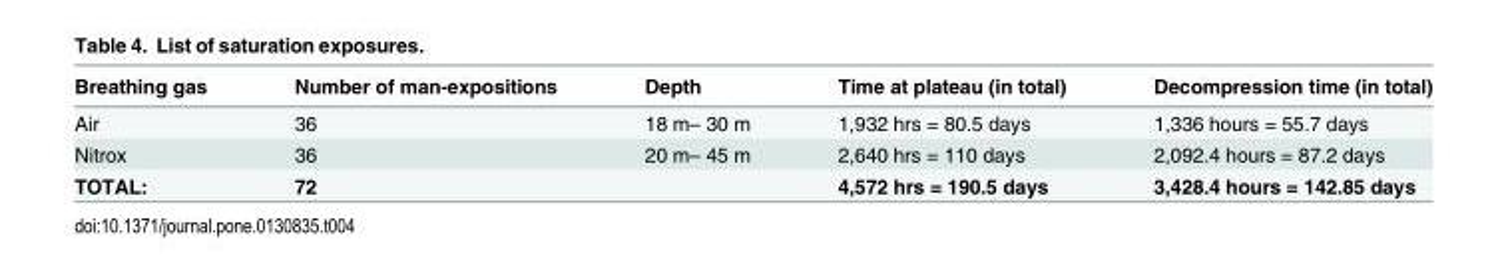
<table><thead><tr><td>Breathing gas</td><td>Number of man-expositions</td><td>Depth</td><td>Time at plateau (in total)</td><td>Decompression time (in total)</td></tr></thead><tbody><tr><td>Air</td><td>36</td><td>18 m– 30 m</td><td>1,932 hrs = 80.5 days</td><td>1,336 hours = 55.7 days</td></tr><tr><td>Nitrox</td><td>36</td><td>20 m– 45 m</td><td>2,640 hrs = 110 days</td><td>2,092.4 hours = 87.2 days</td></tr><tr><td>TOTAL:</td><td>72</td><td></td><td>4,572 hrs = 190.5 days</td><td>3,428.4 hours = 142.85 days</td></tr></tbody></table>